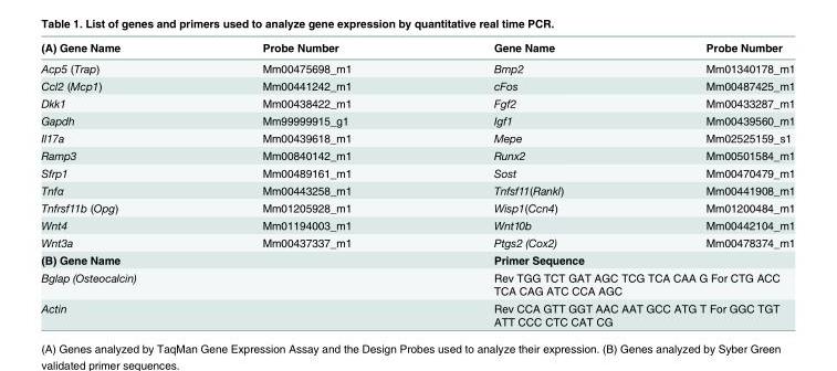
<table><thead><tr><td>(A) Gene Name</td><td>Probe Number</td><td>Gene Name</td><td>Probe Number</td></tr></thead><tbody><tr><td>Acp5 (Trap)</td><td>Mm00475698_m1</td><td>Bmp2</td><td>Mm01340178_m1</td></tr><tr><td>Ccl2 (Mcp1)</td><td>Mm00441242_m1</td><td>cFos</td><td>Mm00487425_m1</td></tr><tr><td>Dkk1</td><td>Mm00438422_m1</td><td>Fgf2</td><td>Mm00433287_m1</td></tr><tr><td>Gapdh</td><td>Mm99999915_g1</td><td>Igf1</td><td>Mm00439560_m1</td></tr><tr><td>Il17a</td><td>Mm00439618_m1</td><td>Mepe</td><td>Mm02525159_s1</td></tr><tr><td>Ramp3</td><td>Mm00840142_m1</td><td>Runx2</td><td>Mm00501584_m1</td></tr><tr><td>Sfrp1</td><td>Mm00489161_m1</td><td>Sost</td><td>Mm00470479_m1</td></tr><tr><td>Tnfα</td><td>Mm00443258_m1</td><td>Tnfsf11(Rankl)</td><td>Mm00441908_m1</td></tr><tr><td>Tnfrsf11b (Opg)</td><td>Mm01205928_m1</td><td>Wisp1(Ccn4)</td><td>Mm01200484_m1</td></tr><tr><td>Wnt4</td><td>Mm01194003_m1</td><td>Wnt10b</td><td>Mm00442104_m1</td></tr><tr><td>Wnt3a</td><td>Mm00437337_m1</td><td>Ptgs2 (Cox2)</td><td>Mm00478374_m1</td></tr><tr><td colspan="2">(B) Gene Name</td><td colspan="2">Primer Sequence</td></tr><tr><td colspan="2">Bglap (Osteocalcin)</td><td colspan="2">Rev TGG TCT GAT AGC TCG TCA CAA G For CTG ACC TCA CAG ATC CCA AGC</td></tr><tr><td colspan="2">Actin</td><td colspan="2">Rev CCA GTT GGT AAC AAT GCC ATG T For GGC TGT ATT CCC CTC CAT CG</td></tr></tbody></table>